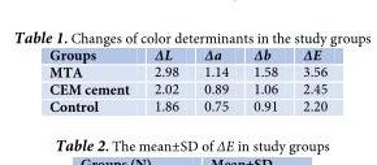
<table><thead><tr><td>Groups</td><td>ΔL</td><td>Δa</td><td>Δb</td><td>ΔE</td></tr></thead><tbody><tr><td>MTA</td><td>2.98</td><td>1.14</td><td>1.58</td><td>3.56</td></tr><tr><td>CEM cement</td><td>2.02</td><td>0.89</td><td>1.06</td><td>2.45</td></tr><tr><td>Control</td><td>1.86</td><td>0.75</td><td>0.91</td><td>2.20</td></tr></tbody></table>